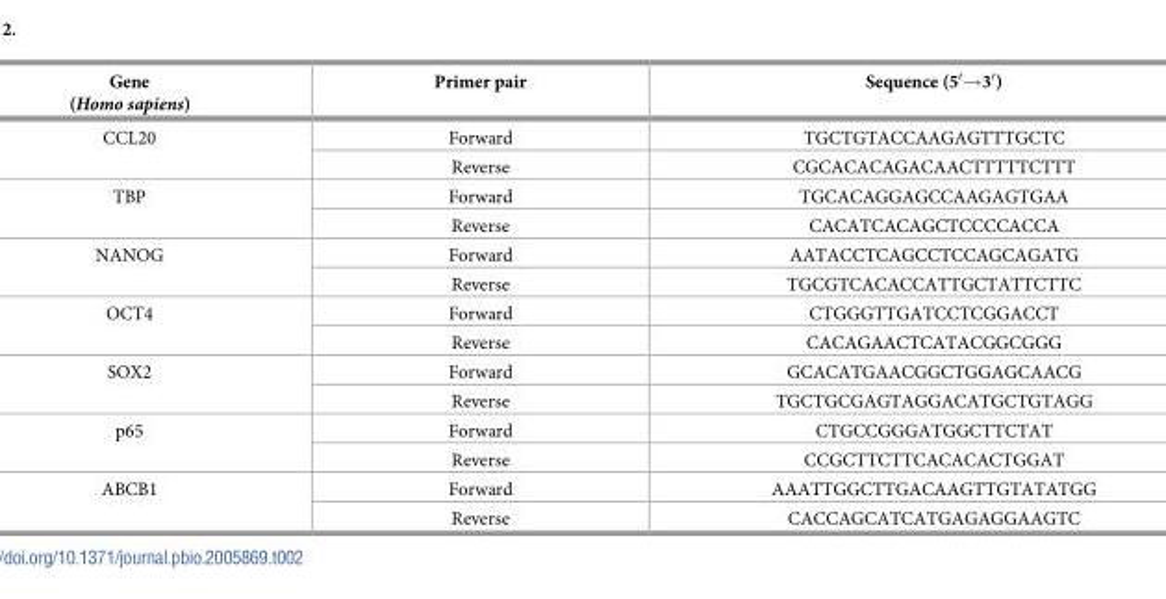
<table><thead><tr><td>Gene (Homo sapiens)</td><td>Primer pair</td><td>Sequence (5′→3′)</td></tr></thead><tbody><tr><td rowspan="2">CCL20</td><td>Forward</td><td>TGCTGTACCAAGAGTTTGCTC</td></tr><tr><td>Reverse</td><td>CGCACACAGACAACTTTTTCTTT</td></tr><tr><td rowspan="2">TBP</td><td>Forward</td><td>TGCACAGGAGCCAAGAGTGAA</td></tr><tr><td>Reverse</td><td>CACATCACAGCTCCCCACCA</td></tr><tr><td rowspan="2">NANOG</td><td>Forward</td><td>AATACCTCAGCCTCCAGCAGATG</td></tr><tr><td>Reverse</td><td>TGCGTCACACCATTGCTATTCTTC</td></tr><tr><td rowspan="2">OCT4</td><td>Forward</td><td>CTGGGTTGATCCTCGGACCT</td></tr><tr><td>Reverse</td><td>CACAGAACTCATACGGCGGG</td></tr><tr><td rowspan="2">SOX2</td><td>Forward</td><td>GCACATGAACGGCTGGAGCAACG</td></tr><tr><td>Reverse</td><td>TGCTGCGAGTAGGACATGCTGTAGG</td></tr><tr><td rowspan="2">p65</td><td>Forward</td><td>CTGCCGGGATGGCTTCTAT</td></tr><tr><td>Reverse</td><td>CCGCTTCTTCACACACTGGAT</td></tr><tr><td rowspan="2">ABCB1</td><td>Forward</td><td>AAATTGGCTTGACAAGTTGTATATGG</td></tr><tr><td>Reverse</td><td>CACCAGCATCATGAGAGGAAGTC</td></tr></tbody></table>